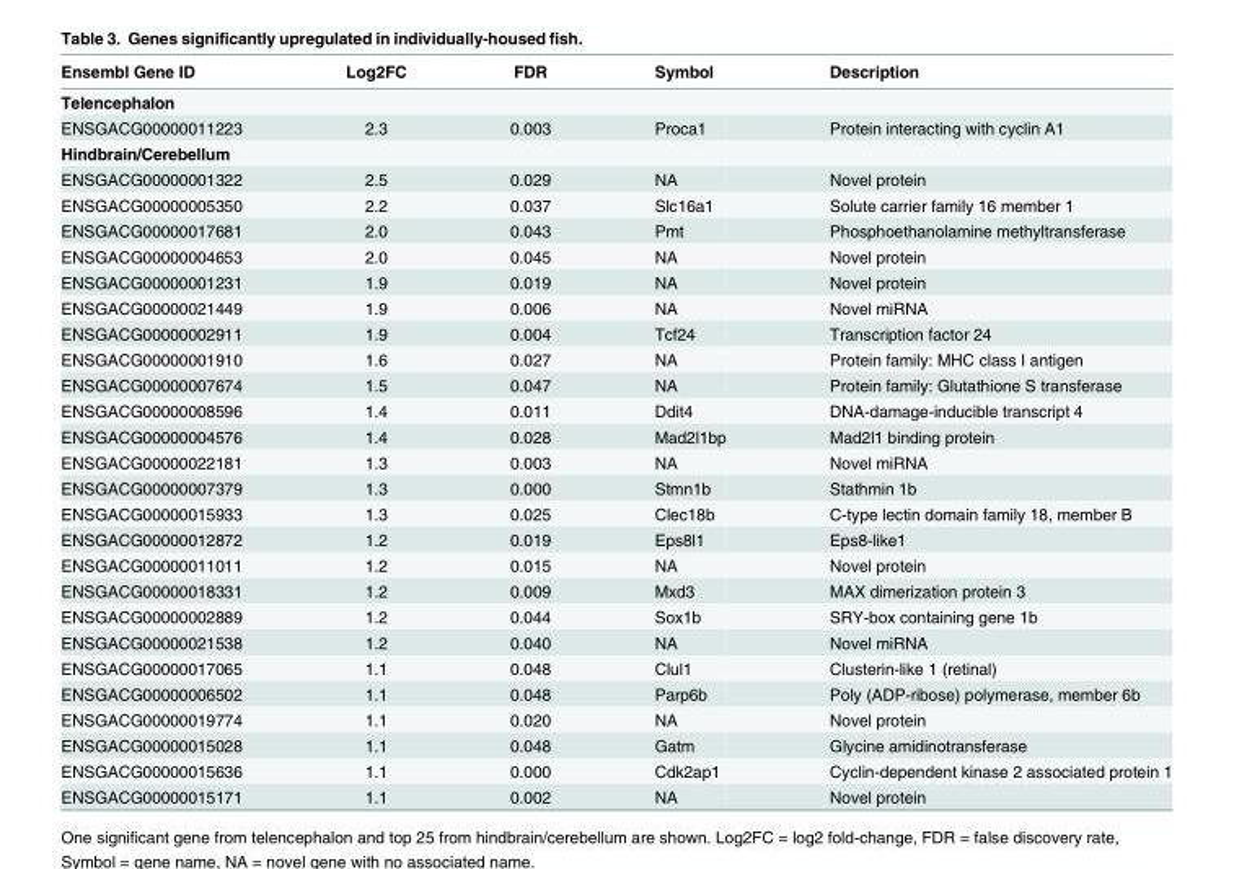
<table><thead><tr><td>Ensembl Gene ID</td><td>Log2FC</td><td>FDR</td><td>Symbol</td><td>Description</td></tr></thead><tbody><tr><td colspan="5">Telencephalon</td></tr><tr><td>ENSGACG00000011223</td><td>2.3</td><td>0.003</td><td>Proca1</td><td>Protein interacting with cyclin A1</td></tr><tr><td colspan="5">Hindbrain/Cerebellum</td></tr><tr><td>ENSGACG00000001322</td><td>2.5</td><td>0.029</td><td>NA</td><td>Novel protein</td></tr><tr><td>ENSGACG00000005350</td><td>2.2</td><td>0.037</td><td>Slc16a1</td><td>Solute carrier family 16 member 1</td></tr><tr><td>ENSGACG00000017681</td><td>2.0</td><td>0.043</td><td>Pmt</td><td>Phosphoethanolamine methyltransferase</td></tr><tr><td>ENSGACG00000004653</td><td>2.0</td><td>0.045</td><td>NA</td><td>Novel protein</td></tr><tr><td>ENSGACG00000001231</td><td>1.9</td><td>0.019</td><td>NA</td><td>Novel protein</td></tr><tr><td>ENSGACG00000021449</td><td>1.9</td><td>0.006</td><td>NA</td><td>Novel miRNA</td></tr><tr><td>ENSGACG00000002911</td><td>1.9</td><td>0.004</td><td>Tcf24</td><td>Transcription factor 24</td></tr><tr><td>ENSGACG00000001910</td><td>1.6</td><td>0.027</td><td>NA</td><td>Protein family: MHC class I antigen</td></tr><tr><td>ENSGACG00000007674</td><td>1.5</td><td>0.047</td><td>NA</td><td>Protein family: Glutathione S transferase</td></tr><tr><td>ENSGACG00000008596</td><td>1.4</td><td>0.011</td><td>Ddit4</td><td>DNA-damage-inducible transcript 4</td></tr><tr><td>ENSGACG00000004576</td><td>1.4</td><td>0.028</td><td>Mad2l1bp</td><td>Mad2l1 binding protein</td></tr><tr><td>ENSGACG00000022181</td><td>1.3</td><td>0.003</td><td>NA</td><td>Novel miRNA</td></tr><tr><td>ENSGACG00000007379</td><td>1.3</td><td>0.000</td><td>Stmn1b</td><td>Stathmin 1b</td></tr><tr><td>ENSGACG00000015933</td><td>1.3</td><td>0.025</td><td>Clec18b</td><td>C-type lectin domain family 18, member B</td></tr><tr><td>ENSGACG00000012872</td><td>1.2</td><td>0.019</td><td>Eps8l1</td><td>Eps8-like1</td></tr><tr><td>ENSGACG00000011011</td><td>1.2</td><td>0.015</td><td>NA</td><td>Novel protein</td></tr><tr><td>ENSGACG00000018331</td><td>1.2</td><td>0.009</td><td>Mxd3</td><td>MAX dimerization protein 3</td></tr><tr><td>ENSGACG00000002889</td><td>1.2</td><td>0.044</td><td>Sox1b</td><td>SRY-box containing gene 1b</td></tr><tr><td>ENSGACG00000021538</td><td>1.2</td><td>0.040</td><td>NA</td><td>Novel miRNA</td></tr><tr><td>ENSGACG00000017065</td><td>1.1</td><td>0.048</td><td>Clul1</td><td>Clusterin-like 1 (retinal)</td></tr><tr><td>ENSGACG00000006502</td><td>1.1</td><td>0.048</td><td>Parp6b</td><td>Poly (ADP-ribose) polymerase, member 6b</td></tr><tr><td>ENSGACG00000019774</td><td>1.1</td><td>0.020</td><td>NA</td><td>Novel protein</td></tr><tr><td>ENSGACG00000015028</td><td>1.1</td><td>0.048</td><td>Gatm</td><td>Glycine amidinotransferase</td></tr><tr><td>ENSGACG00000015636</td><td>1.1</td><td>0.000</td><td>Cdk2ap1</td><td>Cyclin-dependent kinase 2 associated protein 1</td></tr><tr><td>ENSGACG00000015171</td><td>1.1</td><td>0.002</td><td>NA</td><td>Novel protein</td></tr></tbody></table>